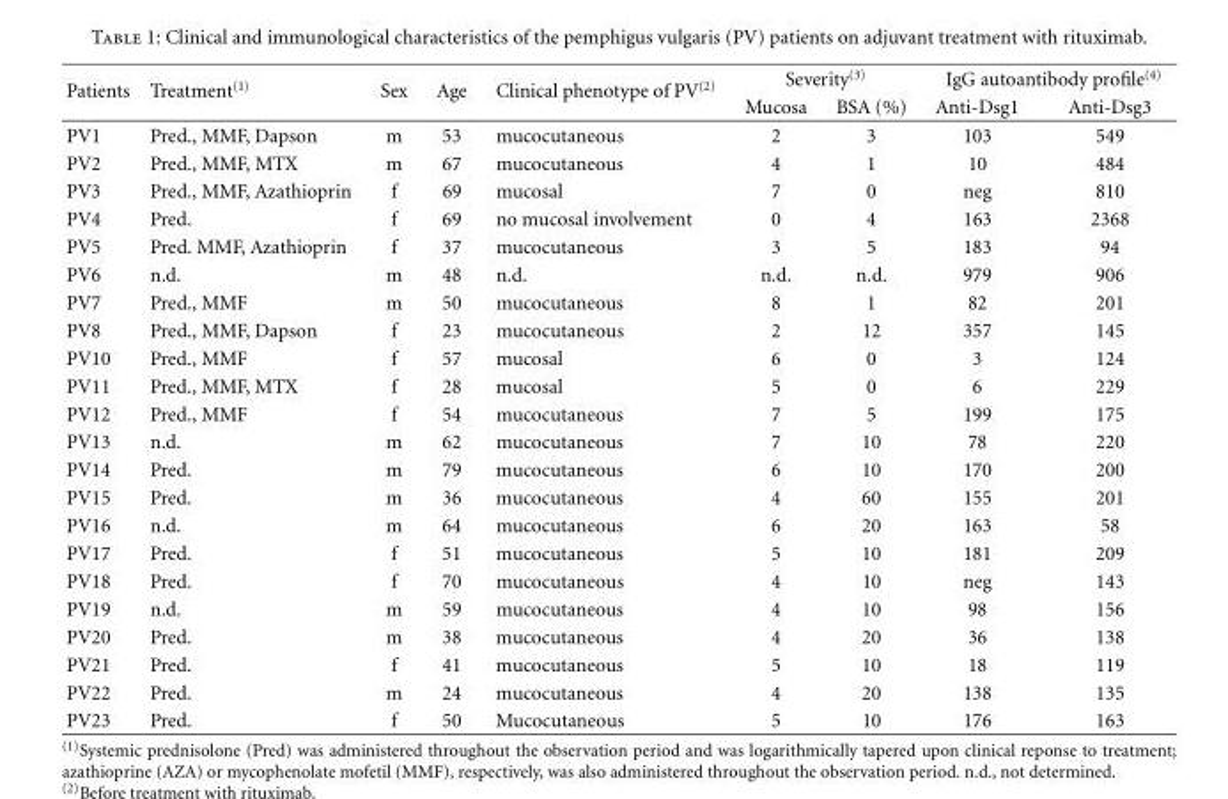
<table><thead><tr><td rowspan="2">Patients</td><td rowspan="2">Treatment<sup>(1)</sup></td><td rowspan="2">Sex</td><td rowspan="2">Age</td><td rowspan="2">Clinical phenotype of PV<sup>(2)</sup></td><td colspan="2">Severity<sup>(3)</sup></td><td colspan="2">IgG autoantibody profile<sup>(4)</sup></td></tr><tr><td>Mucosa</td><td>BSA (%)</td><td>Anti-Dsg1</td><td>Anti-Dsg3</td></tr></thead><tbody><tr><td>PV1</td><td>Pred., MMF, Dapson</td><td>m</td><td>53</td><td>mucocutaneous</td><td>2</td><td>3</td><td>103</td><td>549</td></tr><tr><td>PV2</td><td>Pred., MMF, MTX</td><td>m</td><td>67</td><td>mucocutaneous</td><td>4</td><td>1</td><td>10</td><td>484</td></tr><tr><td>PV3</td><td>Pred., MMF, Azathioprin</td><td>f</td><td>69</td><td>mucosal</td><td>7</td><td>0</td><td>neg</td><td>810</td></tr><tr><td>PV4</td><td>Pred.</td><td>f</td><td>69</td><td>no mucosal involvement</td><td>0</td><td>4</td><td>163</td><td>2368</td></tr><tr><td>PV5</td><td>Pred. MMF, Azathioprin</td><td>f</td><td>37</td><td>mucocutaneous</td><td>3</td><td>5</td><td>183</td><td>94</td></tr><tr><td>PV6</td><td>n.d.</td><td>m</td><td>48</td><td>n.d.</td><td>n.d.</td><td>n.d.</td><td>979</td><td>906</td></tr><tr><td>PV7</td><td>Pred., MMF</td><td>m</td><td>50</td><td>mucocutaneous</td><td>8</td><td>1</td><td>82</td><td>201</td></tr><tr><td>PV8</td><td>Pred., MMF, Dapson</td><td>f</td><td>23</td><td>mucocutaneous</td><td>2</td><td>12</td><td>357</td><td>145</td></tr><tr><td>PV10</td><td>Pred., MMF</td><td>f</td><td>57</td><td>mucosal</td><td>6</td><td>0</td><td>3</td><td>124</td></tr><tr><td>PV11</td><td>Pred., MMF, MTX</td><td>f</td><td>28</td><td>mucosal</td><td>5</td><td>0</td><td>6</td><td>229</td></tr><tr><td>PV12</td><td>Pred., MMF</td><td>f</td><td>54</td><td>mucocutaneous</td><td>7</td><td>5</td><td>199</td><td>175</td></tr><tr><td>PV13</td><td>n.d.</td><td>m</td><td>62</td><td>mucocutaneous</td><td>7</td><td>10</td><td>78</td><td>220</td></tr><tr><td>PV14</td><td>Pred.</td><td>m</td><td>79</td><td>mucocutaneous</td><td>6</td><td>10</td><td>170</td><td>200</td></tr><tr><td>PV15</td><td>Pred.</td><td>m</td><td>36</td><td>mucocutaneous</td><td>4</td><td>60</td><td>155</td><td>201</td></tr><tr><td>PV16</td><td>n.d.</td><td>m</td><td>64</td><td>mucocutaneous</td><td>6</td><td>20</td><td>163</td><td>58</td></tr><tr><td>PV17</td><td>Pred.</td><td>f</td><td>51</td><td>mucocutaneous</td><td>5</td><td>10</td><td>181</td><td>209</td></tr><tr><td>PV18</td><td>Pred.</td><td>f</td><td>70</td><td>mucocutaneous</td><td>4</td><td>10</td><td>neg</td><td>143</td></tr><tr><td>PV19</td><td>n.d.</td><td>m</td><td>59</td><td>mucocutaneous</td><td>4</td><td>10</td><td>98</td><td>156</td></tr><tr><td>PV20</td><td>Pred.</td><td>m</td><td>38</td><td>mucocutaneous</td><td>4</td><td>20</td><td>36</td><td>138</td></tr><tr><td>PV21</td><td>Pred.</td><td>f</td><td>41</td><td>mucocutaneous</td><td>5</td><td>10</td><td>18</td><td>119</td></tr><tr><td>PV22</td><td>Pred.</td><td>m</td><td>24</td><td>mucocutaneous</td><td>4</td><td>20</td><td>138</td><td>135</td></tr><tr><td>PV23</td><td>Pred.</td><td>f</td><td>50</td><td>Mucocutaneous</td><td>5</td><td>10</td><td>176</td><td>163</td></tr></tbody></table>